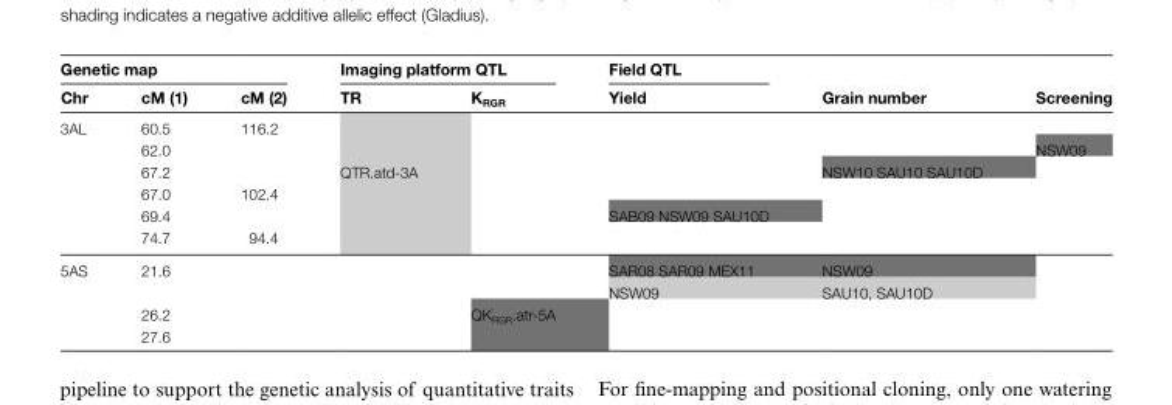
<table><thead><tr><td colspan="3">Genetic map</td><td colspan="2">Imaging platform QTL</td><td rowspan="2">Field QTL Yield</td><td rowspan="2">Grain number</td><td rowspan="2">Screening</td></tr><tr><td>Chr</td><td>cM (1)</td><td>cM (2)</td><td>TR</td><td>K<sub>RGR</sub></td></tr></thead><tbody><tr><td rowspan="6">3AL</td><td>60.5</td><td>116.2</td><td></td><td></td><td></td><td></td><td></td></tr><tr><td>62.0</td><td></td><td></td><td></td><td></td><td></td><td>NSW09</td></tr><tr><td>67.2</td><td></td><td>QTR.atd-3A</td><td></td><td></td><td>NSW10 SAU10 SAU10D</td><td></td></tr><tr><td>67.0</td><td>102.4</td><td></td><td></td><td></td><td></td><td></td></tr><tr><td>69.4</td><td></td><td></td><td></td><td>SAB09 NSW09 SAU10D</td><td></td><td></td></tr><tr><td>74.7</td><td>94.4</td><td></td><td></td><td></td><td></td><td></td></tr><tr><td rowspan="4">5AS</td><td>21.6</td><td></td><td></td><td></td><td>SAR08 SAR09 MEX11</td><td>NSW09</td><td></td></tr><tr><td></td><td></td><td></td><td></td><td>NSW09</td><td>SAU10, SAU10D</td><td></td></tr><tr><td>26.2</td><td></td><td></td><td>QK<sub>RGR</sub>.atr-5A</td><td></td><td></td><td></td></tr><tr><td>27.6</td><td></td><td></td><td></td><td></td><td></td><td></td></tr></tbody></table>